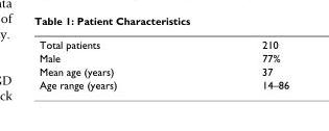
<table><tbody><tr><td>Total patients</td><td>210</td></tr><tr><td>Male</td><td>77%</td></tr><tr><td>Mean age (years)</td><td>37</td></tr><tr><td>Age range (years)</td><td>14–86</td></tr></tbody></table>